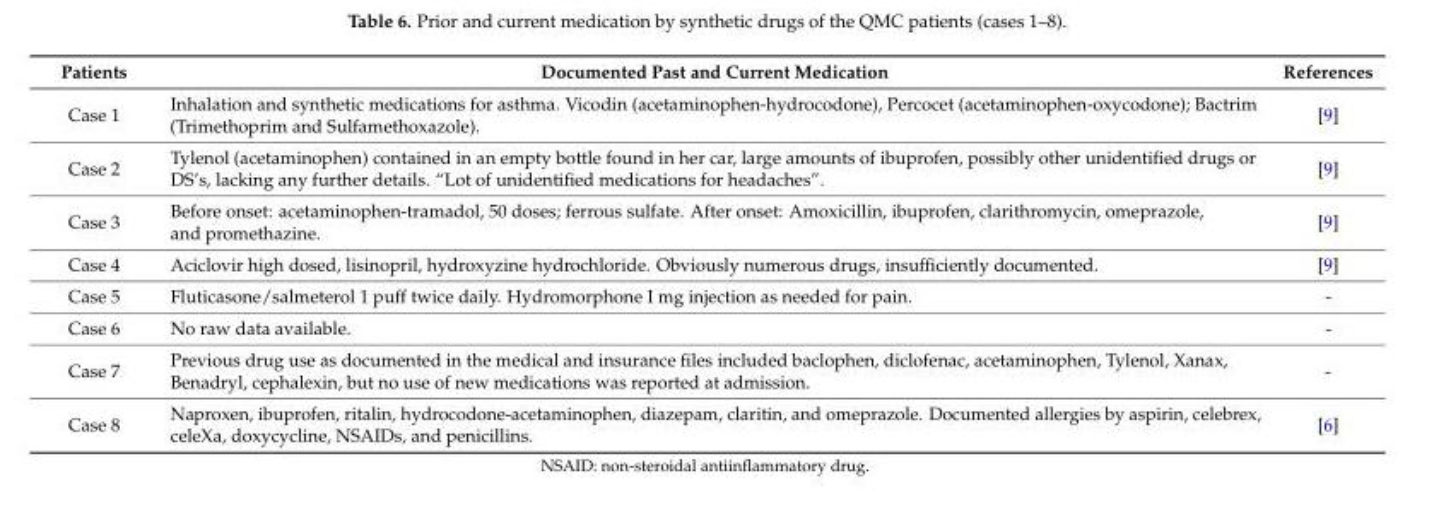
<table><thead><tr><td>Patients</td><td>Documented Past and Current Medication</td><td>References</td></tr></thead><tbody><tr><td>Case 1</td><td>Inhalation and synthetic medications for asthma. Vicodin (acetaminophen-hydrocodone), Percocet (acetaminophen-oxycodone); Bactrim (Trimethoprim and Sulfamethoxazole).</td><td>[9]</td></tr><tr><td>Case 2</td><td>Tylenol (acetaminophen) contained in an empty bottle found in her car, large amounts of ibuprofen, possibly other unidentified drugs or DS’s, lacking any further details. “Lot of unidentified medications for headaches”.</td><td>[9]</td></tr><tr><td>Case 3</td><td>Before onset: acetaminophen-tramadol, 50 doses; ferrous sulfate. After onset: Amoxicillin, ibuprofen, clarithromycin, omeprazole, and promethazine.</td><td>[9]</td></tr><tr><td>Case 4</td><td>Aciclovir high dosed, lisinopril, hydroxyzine hydrochloride. Obviously numerous drugs, insufficiently documented.</td><td>[9]</td></tr><tr><td>Case 5</td><td>Fluticasone/salmeterol 1 puff twice daily. Hydromorphone I mg injection as needed for pain.</td><td>-</td></tr><tr><td>Case 6</td><td>No raw data available.</td><td>-</td></tr><tr><td>Case 7</td><td>Previous drug use as documented in the medical and insurance files included baclophen, diclofenac, acetaminophen, Tylenol, Xanax, Benadryl, cephalexin, but no use of new medications was reported at admission.</td><td>-</td></tr><tr><td>Case 8</td><td>Naproxen, ibuprofen, ritalin, hydrocodone-acetaminophen, diazepam, claritin, and omeprazole. Documented allergies by aspirin, celebrex, celeXa, doxycycline, NSAIDs, and penicillins.</td><td>[6]</td></tr></tbody></table>